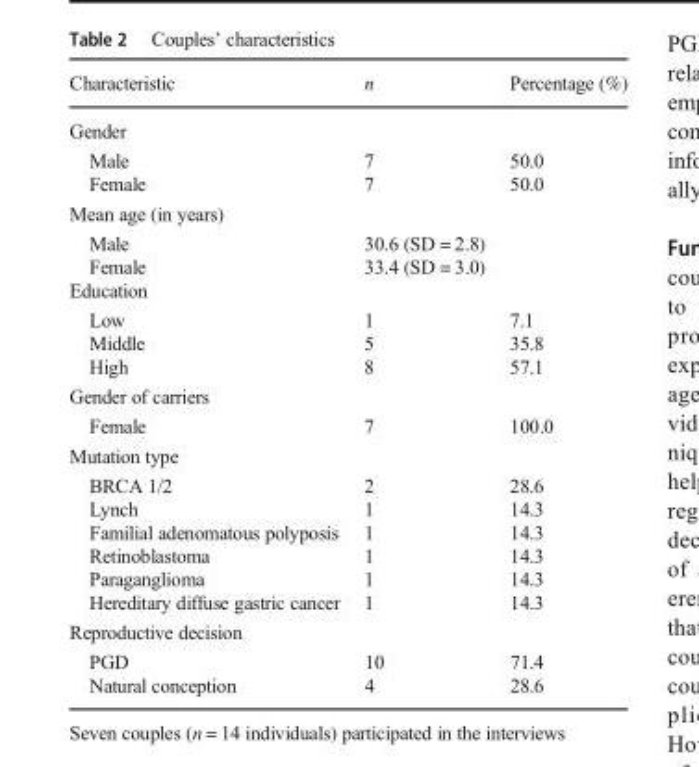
<table><thead><tr><td>Characteristic</td><td>n</td><td>Percentage (%)</td></tr></thead><tbody><tr><td colspan="3">Gender</td></tr><tr><td>Male Female</td><td>7 7</td><td>50.0 50.0</td></tr><tr><td colspan="3">Mean age (in years)</td></tr><tr><td>Male Female</td><td>30.6 (SD = 2.8) 33.4 (SD = 3.0)</td><td></td></tr><tr><td colspan="3">Education</td></tr><tr><td>Low Middle High</td><td>1 5 8</td><td>7.1 35.8 57.1</td></tr><tr><td colspan="3">Gender of carriers</td></tr><tr><td>Female</td><td>7</td><td>100.0</td></tr><tr><td colspan="3">Mutation type</td></tr><tr><td>BRCA 1/2 Lynch Familial adenomatous polyposis Retinoblastoma Paraganglioma Hereditary diffuse gastric cancer</td><td>2 1 1 1 1 1</td><td>28.6 14.3 14.3 14.3 14.3 14.3</td></tr><tr><td colspan="3">Reproductive decision</td></tr><tr><td>PGD Natural conception</td><td>10 4</td><td>71.4 28.6</td></tr></tbody></table>